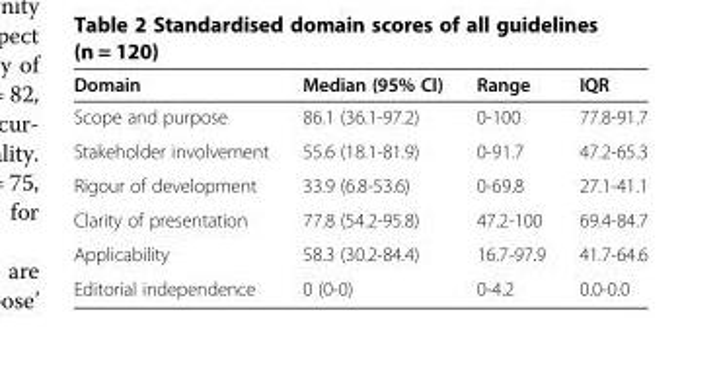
<table><thead><tr><td>Domain</td><td>Median (95% CI)</td><td>Range</td><td>IQR</td></tr></thead><tbody><tr><td>Scope and purpose</td><td>86.1 (36.1-97.2)</td><td>0-100</td><td>77.8-91.7</td></tr><tr><td>Stakeholder involvement</td><td>55.6 (18.1-81.9)</td><td>0-91.7</td><td>47.2-65.3</td></tr><tr><td>Rigour of development</td><td>33.9 (6.8-53.6)</td><td>0-69.8</td><td>27.1-41.1</td></tr><tr><td>Clarity of presentation</td><td>77.8 (54.2-95.8)</td><td>47.2-100</td><td>69.4-84.7</td></tr><tr><td>Applicability</td><td>58.3 (30.2-84.4)</td><td>16.7-97.9</td><td>41.7-64.6</td></tr><tr><td>Editorial independence</td><td>0 (0-0)</td><td>0-4.2</td><td>0.0-0.0</td></tr></tbody></table>